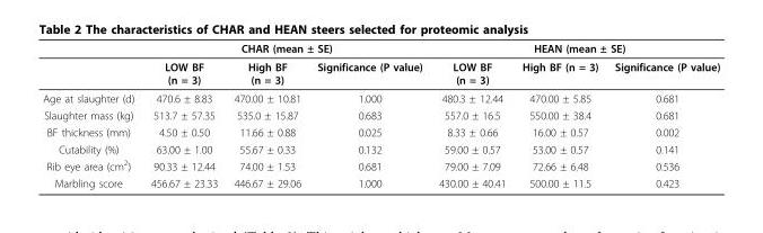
<table><thead><tr><td rowspan="2"></td><td colspan="3">CHAR (mean ± SE)</td><td colspan="3">HEAN (mean ± SE)</td></tr><tr><td>LOW BF (n = 3)</td><td>High BF (n = 3)</td><td>Significance (P value)</td><td>LOW BF (n = 3)</td><td>High BF (n = 3)</td><td>Significance (P value)</td></tr></thead><tbody><tr><td>Age at slaughter (d)</td><td>470.6 ± 8.83</td><td>470.00 ± 10.81</td><td>1.000</td><td>480.3 ± 12.44</td><td>470.00 ± 5.85</td><td>0.681</td></tr><tr><td>Slaughter mass (kg)</td><td>513.7 ± 57.35</td><td>535.0 ± 15.87</td><td>0.683</td><td>557.0 ± 16.5</td><td>550.00 ± 38.4</td><td>0.681</td></tr><tr><td>BF thickness (mm)</td><td>4.50 ± 0.50</td><td>11.66 ± 0.88</td><td>0.025</td><td>8.33 ± 0.66</td><td>16.00 ± 0.57</td><td>0.002</td></tr><tr><td>Cutability (%)</td><td>63.00 ± 1.00</td><td>55.67 ± 0.33</td><td>0.132</td><td>59.00 ± 0.57</td><td>53.00 ± 0.57</td><td>0.141</td></tr><tr><td>Rib eye area (cm<sup>2</sup>)</td><td>90.33 ± 12.44</td><td>74.00 ± 1.53</td><td>0.681</td><td>79.00 ± 7.09</td><td>72.66 ± 6.48</td><td>0.536</td></tr><tr><td>Marbling score</td><td>456.67 ± 23.33</td><td>446.67 ± 29.06</td><td>1.000</td><td>430.00 ± 40.41</td><td>500.00 ± 11.5</td><td>0.423</td></tr></tbody></table>